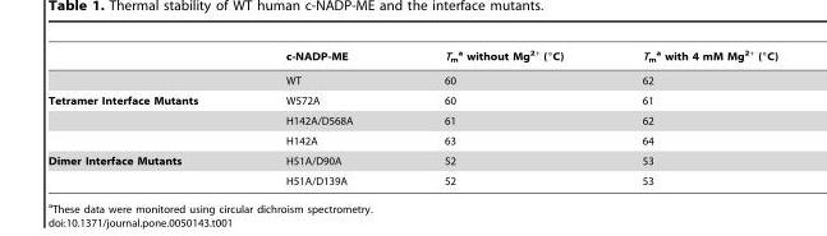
<table><thead><tr><td></td><td>c-NADP-ME</td><td>T<sub>m</sub> a without Mg<sup>2+</sup> (°C)</td><td>T<sub>m</sub> a with 4 mM Mg<sup>2+</sup> (°C)</td></tr></thead><tbody><tr><td></td><td>WT</td><td>60</td><td>62</td></tr><tr><td rowspan="3">Tetramer Interface Mutants</td><td>W572A</td><td>60</td><td>61</td></tr><tr><td>H142A/D568A</td><td>61</td><td>62</td></tr><tr><td>H142A</td><td>63</td><td>64</td></tr><tr><td rowspan="2">Dimer Interface Mutants</td><td>H51A/D90A</td><td>52</td><td>53</td></tr><tr><td>H51A/D139A</td><td>52</td><td>53</td></tr></tbody></table>